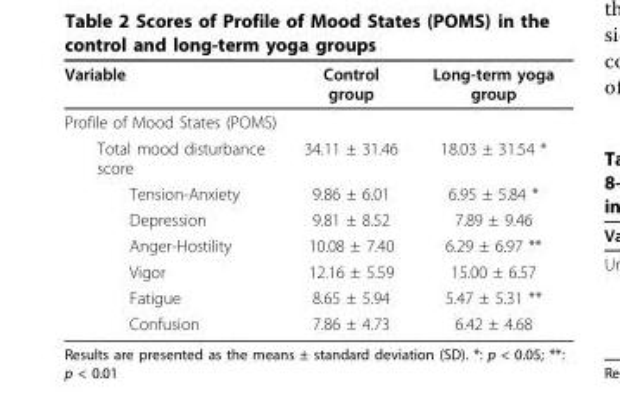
<table><thead><tr><td>Variable</td><td>Control group</td><td>Long-term yoga group</td></tr></thead><tbody><tr><td colspan="3">Profile of Mood States (POMS)</td></tr><tr><td>Total mood disturbance score</td><td>34.11 ± 31.46</td><td>18.03 ± 31.54 *</td></tr><tr><td>Tension-Anxiety</td><td>9.86 ± 6.01</td><td>6.95 ± 5.84 *</td></tr><tr><td>Depression</td><td>9.81 ± 8.52</td><td>7.89 ± 9.46</td></tr><tr><td>Anger-Hostility</td><td>10.08 ± 7.40</td><td>6.29 ± 6.97 **</td></tr><tr><td>Vigor</td><td>12.16 ± 5.59</td><td>15.00 ± 6.57</td></tr><tr><td>Fatigue</td><td>8.65 ± 5.94</td><td>5.47 ± 5.31 **</td></tr><tr><td>Confusion</td><td>7.86 ± 4.73</td><td>6.42 ± 4.68</td></tr></tbody></table>